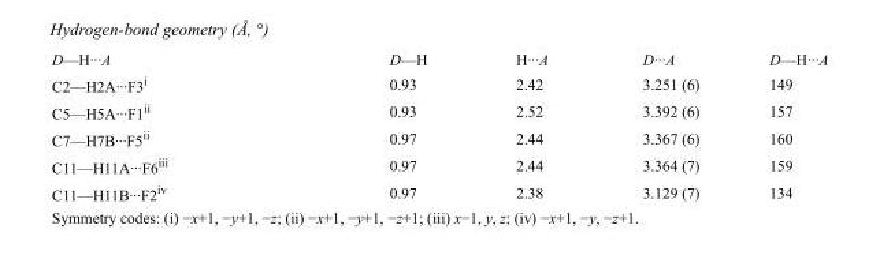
<table><tbody><tr><td>D—H···A</td><td>D—H</td><td>H···A</td><td>D···A</td><td>D—H···A</td></tr><tr><td>C2—H2A···F3<sup>i</sup></td><td>0.93</td><td>2.42</td><td>3.251 (6)</td><td>149</td></tr><tr><td>C5—H5A···F1<sup>ii</sup></td><td>0.93</td><td>2.52</td><td>3.392 (6)</td><td>157</td></tr><tr><td>C7—H7B···F5<sup>ii</sup></td><td>0.97</td><td>2.44</td><td>3.367 (6)</td><td>160</td></tr><tr><td>C11—H11A···F6<sup>iii</sup></td><td>0.97</td><td>2.44</td><td>3.364 (7)</td><td>159</td></tr><tr><td>C11—H11B···F2<sup>iv</sup></td><td>0.97</td><td>2.38</td><td>3.129 (7)</td><td>134</td></tr></tbody></table>